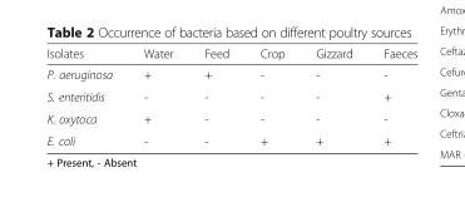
<table><thead><tr><td>Isolates</td><td>Water</td><td>Feed</td><td>Crop</td><td>Gizzard</td><td>Faeces</td></tr></thead><tbody><tr><td>P. aeruginosa</td><td>+</td><td>+</td><td>-</td><td>-</td><td>-</td></tr><tr><td>S. enteritidis</td><td>-</td><td>-</td><td>-</td><td>-</td><td>+</td></tr><tr><td>K. oxytoca</td><td>+</td><td>-</td><td>-</td><td>-</td><td>-</td></tr><tr><td>E. coli</td><td>-</td><td>-</td><td>+</td><td>+</td><td>+</td></tr></tbody></table>